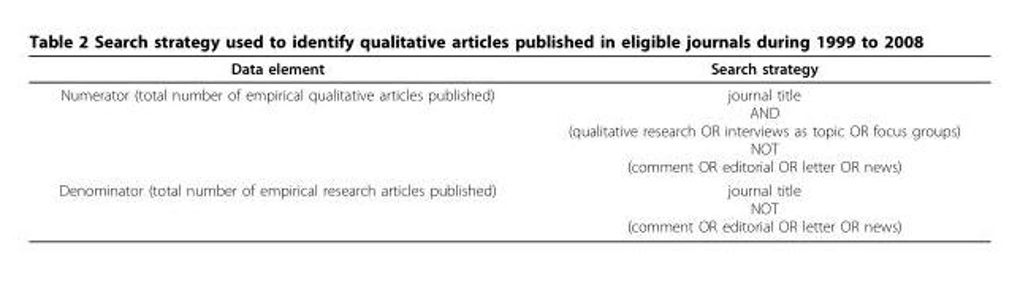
<table><thead><tr><td>Data element</td><td>Search strategy</td></tr></thead><tbody><tr><td>Numerator (total number of empirical qualitative articles published)</td><td>journal title AND (qualitative research OR interviews as topic OR focus groups) NOT (comment OR editorial OR letter OR news)</td></tr><tr><td>Denominator (total number of empirical research articles published)</td><td>journal title NOT (comment OR editorial OR letter OR news)</td></tr></tbody></table>